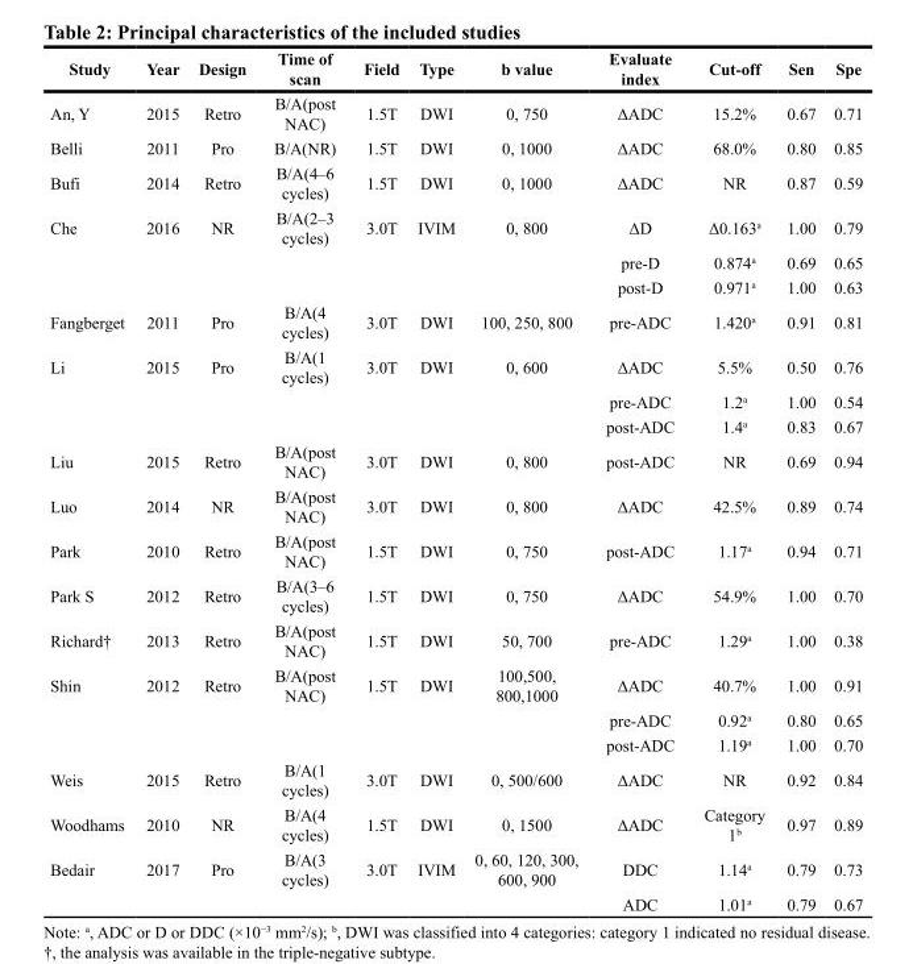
<table><thead><tr><td>Study</td><td>Year</td><td>Design</td><td>Time of scan</td><td>Field</td><td>Type</td><td>b value</td><td>Evaluate index</td><td>Cut-off</td><td>Sen</td><td>Spe</td></tr></thead><tbody><tr><td>An, Y</td><td>2015</td><td>Retro</td><td>B/A(post NAC)</td><td>1.5T</td><td>DWI</td><td>0, 750</td><td>ΔADC</td><td>15.2%</td><td>0.67</td><td>0.71</td></tr><tr><td>Belli</td><td>2011</td><td>Pro</td><td>B/A(NR)</td><td>1.5T</td><td>DWI</td><td>0, 1000</td><td>ΔADC</td><td>68.0%</td><td>0.80</td><td>0.85</td></tr><tr><td>Bufi</td><td>2014</td><td>Retro</td><td>B/A(4–6 cycles)</td><td>1.5T</td><td>DWI</td><td>0, 1000</td><td>ΔADC</td><td>NR</td><td>0.87</td><td>0.59</td></tr><tr><td rowspan="3">Che</td><td>2016</td><td>NR</td><td>B/A(2–3 cycles)</td><td>3.0T</td><td>IVIM</td><td>0, 800</td><td>ΔD</td><td>Δ0.163<sup>a</sup></td><td>1.00</td><td>0.79</td></tr><tr><td></td><td></td><td></td><td></td><td></td><td></td><td>pre-D</td><td>0.874<sup>a</sup></td><td>0.69</td><td>0.65</td></tr><tr><td></td><td></td><td></td><td></td><td></td><td></td><td>post-D</td><td>0.971<sup>a</sup></td><td>1.00</td><td>0.63</td></tr><tr><td>Fangberget</td><td>2011</td><td>Pro</td><td>B/A(4 cycles)</td><td>3.0T</td><td>DWI</td><td>100, 250, 800</td><td>pre-ADC</td><td>1.420<sup>a</sup></td><td>0.91</td><td>0.81</td></tr><tr><td rowspan="3">Li</td><td>2015</td><td>Pro</td><td>B/A(1 cycles)</td><td>3.0T</td><td>DWI</td><td>0, 600</td><td>ΔADC</td><td>5.5%</td><td>0.50</td><td>0.76</td></tr><tr><td></td><td></td><td></td><td></td><td></td><td></td><td>pre-ADC</td><td>1.2<sup>a</sup></td><td>1.00</td><td>0.54</td></tr><tr><td></td><td></td><td></td><td></td><td></td><td></td><td>post-ADC</td><td>1.4<sup>a</sup></td><td>0.83</td><td>0.67</td></tr><tr><td>Liu</td><td>2015</td><td>Retro</td><td>B/A(post NAC)</td><td>3.0T</td><td>DWI</td><td>0, 800</td><td>post-ADC</td><td>NR</td><td>0.69</td><td>0.94</td></tr><tr><td>Luo</td><td>2014</td><td>NR</td><td>B/A(post NAC)</td><td>3.0T</td><td>DWI</td><td>0, 800</td><td>ΔADC</td><td>42.5%</td><td>0.89</td><td>0.74</td></tr><tr><td>Park</td><td>2010</td><td>Retro</td><td>B/A(post NAC)</td><td>1.5T</td><td>DWI</td><td>0, 750</td><td>post-ADC</td><td>1.17<sup>a</sup></td><td>0.94</td><td>0.71</td></tr><tr><td>Park S</td><td>2012</td><td>Retro</td><td>B/A(3–6 cycles)</td><td>1.5T</td><td>DWI</td><td>0, 750</td><td>ΔADC</td><td>54.9%</td><td>1.00</td><td>0.70</td></tr><tr><td>Richard†</td><td>2013</td><td>Retro</td><td>B/A(post NAC)</td><td>1.5T</td><td>DWI</td><td>50, 700</td><td>pre-ADC</td><td>1.29<sup>a</sup></td><td>1.00</td><td>0.38</td></tr><tr><td rowspan="3">Shin</td><td>2012</td><td>Retro</td><td>B/A(post NAC)</td><td>1.5T</td><td>DWI</td><td>100,500, 800,1000</td><td>ΔADC</td><td>40.7%</td><td>1.00</td><td>0.91</td></tr><tr><td></td><td></td><td></td><td></td><td></td><td></td><td>pre-ADC</td><td>0.92<sup>a</sup></td><td>0.80</td><td>0.65</td></tr><tr><td></td><td></td><td></td><td></td><td></td><td></td><td>post-ADC</td><td>1.19<sup>a</sup></td><td>1.00</td><td>0.70</td></tr><tr><td>Weis</td><td>2015</td><td>Retro</td><td>B/A(1 cycles)</td><td>3.0T</td><td>DWI</td><td>0, 500/600</td><td>ΔADC</td><td>NR</td><td>0.92</td><td>0.84</td></tr><tr><td>Woodhams</td><td>2010</td><td>NR</td><td>B/A(4 cycles)</td><td>1.5T</td><td>DWI</td><td>0, 1500</td><td>ΔADC</td><td>Category 1<sup>b</sup></td><td>0.97</td><td>0.89</td></tr><tr><td rowspan="2">Bedair</td><td>2017</td><td>Pro</td><td>B/A(3 cycles)</td><td>3.0T</td><td>IVIM</td><td>0, 60, 120, 300, 600, 900</td><td>DDC</td><td>1.14<sup>a</sup></td><td>0.79</td><td>0.73</td></tr><tr><td></td><td></td><td></td><td></td><td></td><td></td><td>ADC</td><td>1.01<sup>a</sup></td><td>0.79</td><td>0.67</td></tr></tbody></table>